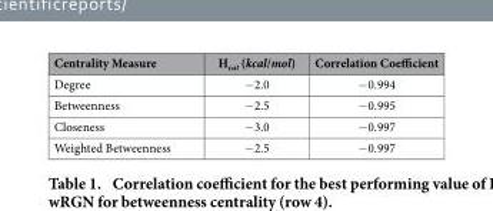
<table><thead><tr><td>Centrality Measure</td><td>H<sub>cut</sub> (kcal/mol)</td><td>Correlation Coefficient</td></tr></thead><tbody><tr><td>Degree</td><td>− 2.0</td><td>− 0.994</td></tr><tr><td>Betweenness</td><td>− 2.5</td><td>− 0.995</td></tr><tr><td>Closeness</td><td>− 3.0</td><td>− 0.997</td></tr><tr><td>Weighted Betweenness</td><td>− 2.5</td><td>− 0.997</td></tr></tbody></table>